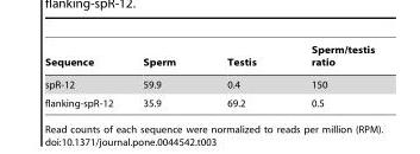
<table><thead><tr><td>Sequence</td><td>Sperm</td><td>Testis</td><td>Sperm/testis ratio</td></tr></thead><tbody><tr><td>spR-12</td><td>59.9</td><td>0.4</td><td>150</td></tr><tr><td>flanking-spR-12</td><td>35.9</td><td>69.2</td><td>0.5</td></tr></tbody></table>